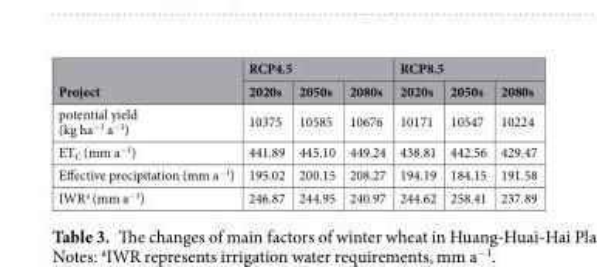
<table><thead><tr><td rowspan="2">Project</td><td colspan="3">RCP4.5</td><td colspan="3">RCP8.5</td></tr><tr><td>2020s</td><td>2050s</td><td>2080s</td><td>2020s</td><td>2050s</td><td>2080s</td></tr></thead><tbody><tr><td>potential yield (kg ha<sup>−1</sup> a<sup>−1</sup>)</td><td>10375</td><td>10585</td><td>10676</td><td>10171</td><td>10547</td><td>10224</td></tr><tr><td>ET<sub>C</sub> (mm a<sup>−1</sup>)</td><td>441.89</td><td>445.10</td><td>449.24</td><td>438.81</td><td>442.56</td><td>429.47</td></tr><tr><td>Effective precipitation (mm a<sup>−1</sup>)</td><td>195.02</td><td>200.15</td><td>208.27</td><td>194.19</td><td>184.15</td><td>191.58</td></tr><tr><td>IWR<sup>a</sup> (mm a<sup>−1</sup>)</td><td>246.87</td><td>244.95</td><td>240.97</td><td>244.62</td><td>258.41</td><td>237.89</td></tr></tbody></table>